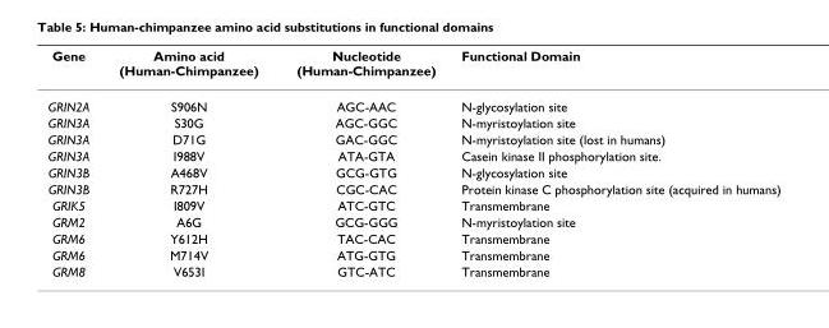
<table><thead><tr><td>Gene</td><td>Amino acid (Human-Chimpanzee)</td><td>Nucleotide (Human-Chimpanzee)</td><td>Functional Domain</td></tr></thead><tbody><tr><td>GRIN2A</td><td>S906N</td><td>AGC-AAC</td><td>N-glycosylation site</td></tr><tr><td>GRIN3A</td><td>S30G</td><td>AGC-GGC</td><td>N-myristoylation site</td></tr><tr><td>GRIN3A</td><td>D71G</td><td>GAC-GGC</td><td>N-myristoylation site (lost in humans)</td></tr><tr><td>GRIN3A</td><td>I988V</td><td>ATA-GTA</td><td>Casein kinase II phosphorylation site.</td></tr><tr><td>GRIN3B</td><td>A468V</td><td>GCG-GTG</td><td>N-glycosylation site</td></tr><tr><td>GRIN3B</td><td>R727H</td><td>CGC-CAC</td><td>Protein kinase C phosphorylation site (acquired in humans)</td></tr><tr><td>GRIK5</td><td>I809V</td><td>ATC-GTC</td><td>Transmembrane</td></tr><tr><td>GRM2</td><td>A6G</td><td>GCG-GGG</td><td>N-myristoylation site</td></tr><tr><td>GRM6</td><td>Y612H</td><td>TAC-CAC</td><td>Transmembrane</td></tr><tr><td>GRM6</td><td>M714V</td><td>ATG-GTG</td><td>Transmembrane</td></tr><tr><td>GRM8</td><td>V653I</td><td>GTC-ATC</td><td>Transmembrane</td></tr></tbody></table>